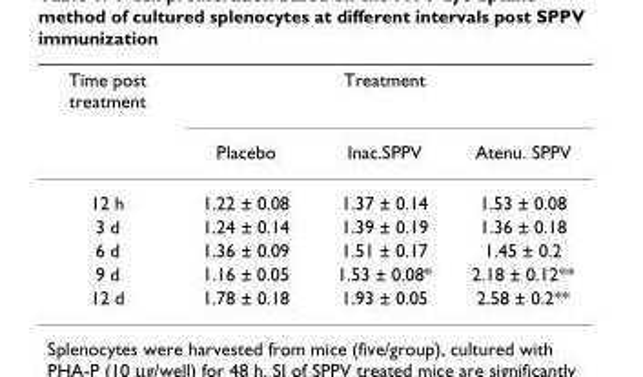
<table><thead><tr><td rowspan="2">Time post treatment</td><td colspan="3">Treatment</td></tr><tr><td>Placebo</td><td>Inac.SPPV</td><td>Atenu. SPPV</td></tr></thead><tbody><tr><td>12 h</td><td>1.22 ± 0.08</td><td>1.37 ± 0.14</td><td>1.53 ± 0.08</td></tr><tr><td>3 d</td><td>1.24 ± 0.14</td><td>1.39 ± 0.19</td><td>1.36 ± 0.18</td></tr><tr><td>6 d</td><td>1.36 ± 0.09</td><td>1.51 ± 0.17</td><td>1.45 ± 0.2</td></tr><tr><td>9 d</td><td>1.16 ± 0.05</td><td>1.53 ± 0.08*</td><td>2.18 ± 0.12**</td></tr><tr><td>12 d</td><td>1.78 ± 0.18</td><td>1.93 ± 0.05</td><td>2.58 ± 0.2**</td></tr></tbody></table>